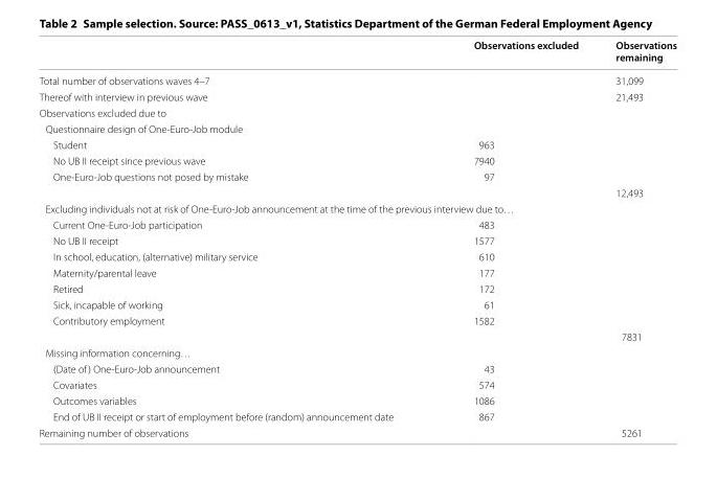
<table><thead><tr><td></td><td>Observations excluded</td><td>Observations remaining</td></tr></thead><tbody><tr><td>Total number of observations waves 4–7</td><td></td><td>31,099</td></tr><tr><td>Thereof with interview in previous wave</td><td></td><td>21,493</td></tr><tr><td colspan="3">Observations excluded due to</td></tr><tr><td colspan="3">Questionnaire design of One-Euro-Job module</td></tr><tr><td>Student</td><td>963</td><td></td></tr><tr><td>No UB II receipt since previous wave</td><td>7940</td><td></td></tr><tr><td rowspan="2">One-Euro-Job questions not posed by mistake</td><td>97</td><td></td></tr><tr><td></td><td>12,493</td></tr><tr><td colspan="3">Excluding individuals not at risk of One-Euro-Job announcement at the time of the previous interview due to…</td></tr><tr><td>Current One-Euro-Job participation</td><td>483</td><td></td></tr><tr><td>No UB II receipt</td><td>1577</td><td></td></tr><tr><td>In school, education, (alternative) military service</td><td>610</td><td></td></tr><tr><td>Maternity/parental leave</td><td>177</td><td></td></tr><tr><td>Retired</td><td>172</td><td></td></tr><tr><td>Sick, incapable of working</td><td>61</td><td></td></tr><tr><td rowspan="2">Contributory employment</td><td>1582</td><td></td></tr><tr><td></td><td>7831</td></tr><tr><td colspan="3">Missing information concerning…</td></tr><tr><td>(Date of) One-Euro-Job announcement</td><td>43</td><td></td></tr><tr><td>Covariates</td><td>574</td><td></td></tr><tr><td>Outcomes variables</td><td>1086</td><td></td></tr><tr><td>End of UB II receipt or start of employment before (random) announcement date</td><td>867</td><td></td></tr><tr><td>Remaining number of observations</td><td></td><td>5261</td></tr></tbody></table>